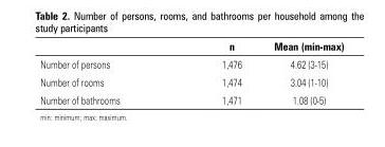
<table><thead><tr><td></td><td>n</td><td>Mean (min-max)</td></tr></thead><tbody><tr><td>Number of persons</td><td>1,476</td><td>4.62 (3-15)</td></tr><tr><td>Number of rooms</td><td>1,474</td><td>3.04 (1-10)</td></tr><tr><td>Number of bathrooms</td><td>1,471</td><td>1.08 (0-5)</td></tr></tbody></table>